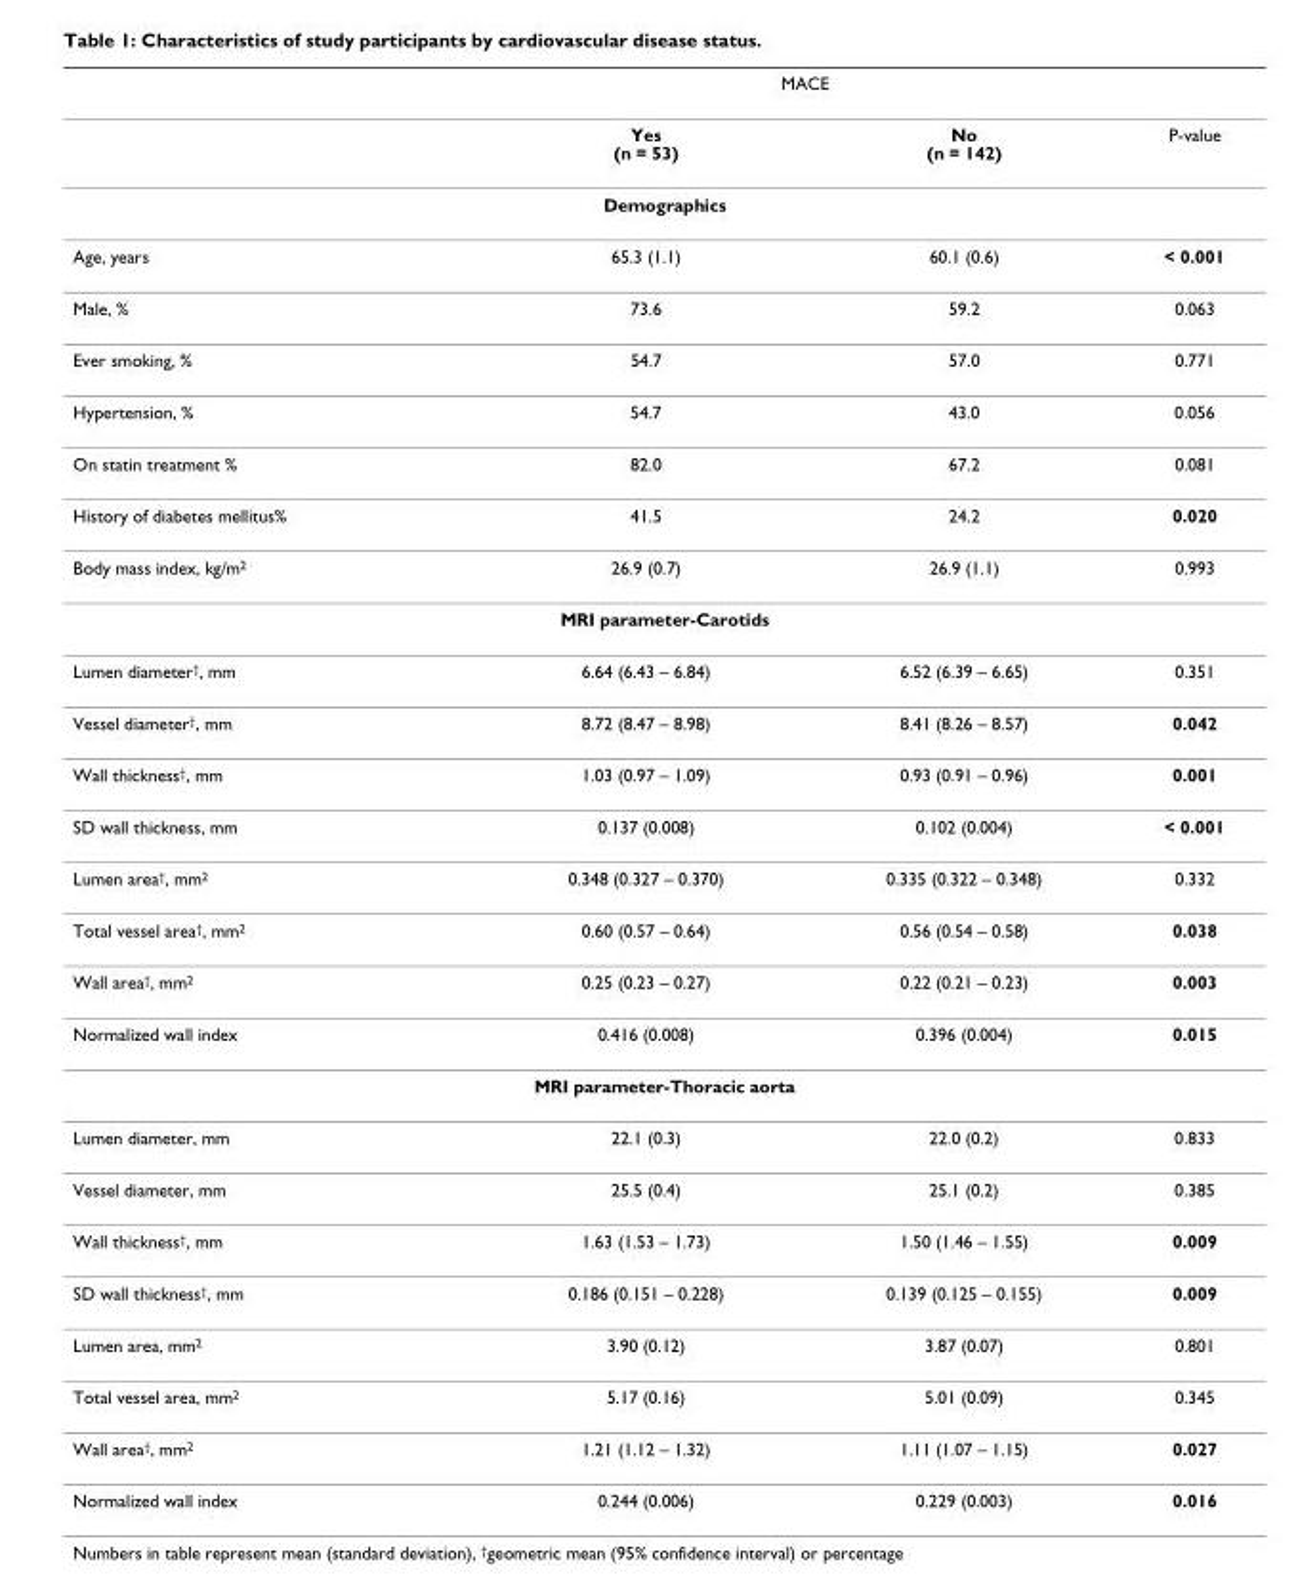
<table><thead><tr><td rowspan="2"></td><td colspan="2">MACE</td><td rowspan="2">P-value</td></tr><tr><td>Yes (n = 53)</td><td>No (n = 142)</td></tr></thead><tbody><tr><td colspan="4">Demographics</td></tr><tr><td>Age, years</td><td>65.3 (1.1)</td><td>60.1 (0.6)</td><td>&lt; 0.001</td></tr><tr><td>Male, %</td><td>73.6</td><td>59.2</td><td>0.063</td></tr><tr><td>Ever smoking, %</td><td>54.7</td><td>57.0</td><td>0.771</td></tr><tr><td>Hypertension, %</td><td>54.7</td><td>43.0</td><td>0.056</td></tr><tr><td>On statin treatment %</td><td>82.0</td><td>67.2</td><td>0.081</td></tr><tr><td>History of diabetes mellitus%</td><td>41.5</td><td>24.2</td><td>0.020</td></tr><tr><td>Body mass index, kg/m<sup>2</sup></td><td>26.9 (0.7)</td><td>26.9 (1.1)</td><td>0.993</td></tr><tr><td colspan="4">MRI parameter-Carotids</td></tr><tr><td>Lumen diameter<sup>†</sup>, mm</td><td>6.64 (6.43 – 6.84)</td><td>6.52 (6.39 – 6.65)</td><td>0.351</td></tr><tr><td>Vessel diameter<sup>†</sup>, mm</td><td>8.72 (8.47 – 8.98)</td><td>8.41 (8.26 – 8.57)</td><td>0.042</td></tr><tr><td>Wall thickness<sup>†</sup>, mm</td><td>1.03 (0.97 – 1.09)</td><td>0.93 (0.91 – 0.96)</td><td>0.001</td></tr><tr><td>SD wall thickness, mm</td><td>0.137 (0.008)</td><td>0.102 (0.004)</td><td>&lt; 0.001</td></tr><tr><td>Lumen area<sup>†</sup>, mm<sup>2</sup></td><td>0.348 (0.327 – 0.370)</td><td>0.335 (0.322 – 0.348)</td><td>0.332</td></tr><tr><td>Total vessel area<sup>†</sup>, mm<sup>2</sup></td><td>0.60 (0.57 – 0.64)</td><td>0.56 (0.54 – 0.58)</td><td>0.038</td></tr><tr><td>Wall area<sup>†</sup>, mm<sup>2</sup></td><td>0.25 (0.23 – 0.27)</td><td>0.22 (0.21 – 0.23)</td><td>0.003</td></tr><tr><td>Normalized wall index</td><td>0.416 (0.008)</td><td>0.396 (0.004)</td><td>0.015</td></tr><tr><td colspan="4">MRI parameter-Thoracic aorta</td></tr><tr><td>Lumen diameter, mm</td><td>22.1 (0.3)</td><td>22.0 (0.2)</td><td>0.833</td></tr><tr><td>Vessel diameter, mm</td><td>25.5 (0.4)</td><td>25.1 (0.2)</td><td>0.385</td></tr><tr><td>Wall thickness<sup>†</sup>, mm</td><td>1.63 (1.53 – 1.73)</td><td>1.50 (1.46 – 1.55)</td><td>0.009</td></tr><tr><td>SD wall thickness<sup>†</sup>, mm</td><td>0.186 (0.151 – 0.228)</td><td>0.139 (0.125 – 0.155)</td><td>0.009</td></tr><tr><td>Lumen area, mm<sup>2</sup></td><td>3.90 (0.12)</td><td>3.87 (0.07)</td><td>0.801</td></tr><tr><td>Total vessel area, mm<sup>2</sup></td><td>5.17 (0.16)</td><td>5.01 (0.09)</td><td>0.345</td></tr><tr><td>Wall area<sup>†</sup>, mm<sup>2</sup></td><td>1.21 (1.12 – 1.32)</td><td>1.11 (1.07 – 1.15)</td><td>0.027</td></tr><tr><td>Normalized wall index</td><td>0.244 (0.006)</td><td>0.229 (0.003)</td><td>0.016</td></tr></tbody></table>